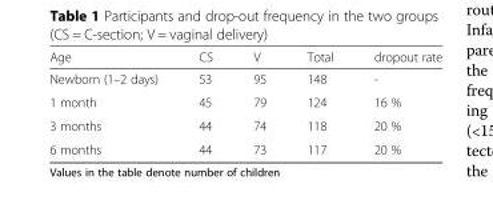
<table><thead><tr><td>Age</td><td>CS</td><td>V</td><td>Total</td><td>dropout rate</td></tr></thead><tbody><tr><td>Newborn (1–2 days)</td><td>53</td><td>95</td><td>148</td><td>-</td></tr><tr><td>1 month</td><td>45</td><td>79</td><td>124</td><td>16 %</td></tr><tr><td>3 months</td><td>44</td><td>74</td><td>118</td><td>20 %</td></tr><tr><td>6 months</td><td>44</td><td>73</td><td>117</td><td>20 %</td></tr></tbody></table>